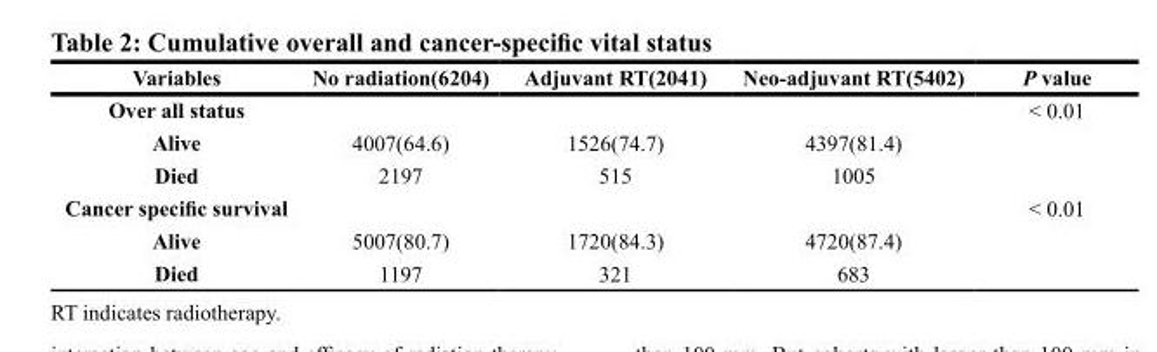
<table><thead><tr><td>Variables</td><td>No radiation(6204)</td><td>Adjuvant RT(2041)</td><td>Neo-adjuvant RT(5402)</td><td>P value</td></tr></thead><tbody><tr><td>Over all status</td><td></td><td></td><td></td><td>&lt; 0.01</td></tr><tr><td>Alive</td><td>4007(64.6)</td><td>1526(74.7)</td><td>4397(81.4)</td><td></td></tr><tr><td>Died</td><td>2197</td><td>515</td><td>1005</td><td></td></tr><tr><td>Cancer specific survival</td><td></td><td></td><td></td><td>&lt; 0.01</td></tr><tr><td>Alive</td><td>5007(80.7)</td><td>1720(84.3)</td><td>4720(87.4)</td><td></td></tr><tr><td>Died</td><td>1197</td><td>321</td><td>683</td><td></td></tr></tbody></table>